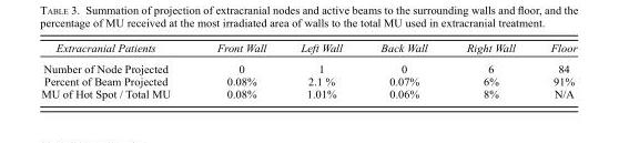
<table><thead><tr><td>Extracranial Patients</td><td>Front Wall</td><td>Left Wall</td><td>Back Wall</td><td>Right Wall</td><td>Floor</td></tr></thead><tbody><tr><td>Number of Node Projected</td><td>0</td><td>1</td><td>0</td><td>6</td><td>84</td></tr><tr><td>Percent of Beam Projected</td><td>0.08%</td><td>2.1 %</td><td>0.07%</td><td>6%</td><td>91%</td></tr><tr><td>MU of Hot Spot / Total MU</td><td>0.08%</td><td>1.01%</td><td>0.06%</td><td>8%</td><td>N/A</td></tr></tbody></table>